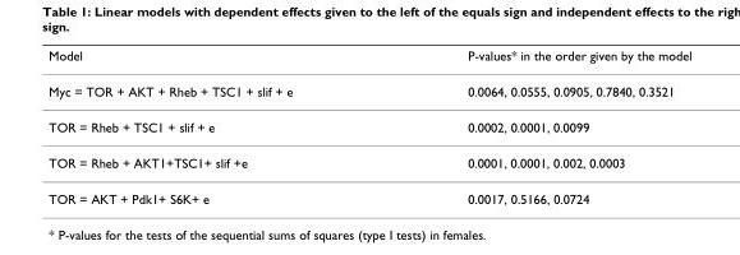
<table><thead><tr><td>Model</td><td>P-values* in the order given by the model</td></tr></thead><tbody><tr><td>Myc = TOR + AKT + Rheb + TSC1 + slif + e</td><td>0.0064, 0.0555, 0.0905, 0.7840, 0.3521</td></tr><tr><td>TOR = Rheb + TSC1 + slif + e</td><td>0.0002, 0.0001, 0.0099</td></tr><tr><td>TOR = Rheb + AKT1+TSC1+ slif +e</td><td>0.0001, 0.0001, 0.002, 0.0003</td></tr><tr><td>TOR = AKT + Pdk1+ S6K+ e</td><td>0.0017, 0.5166, 0.0724</td></tr></tbody></table>